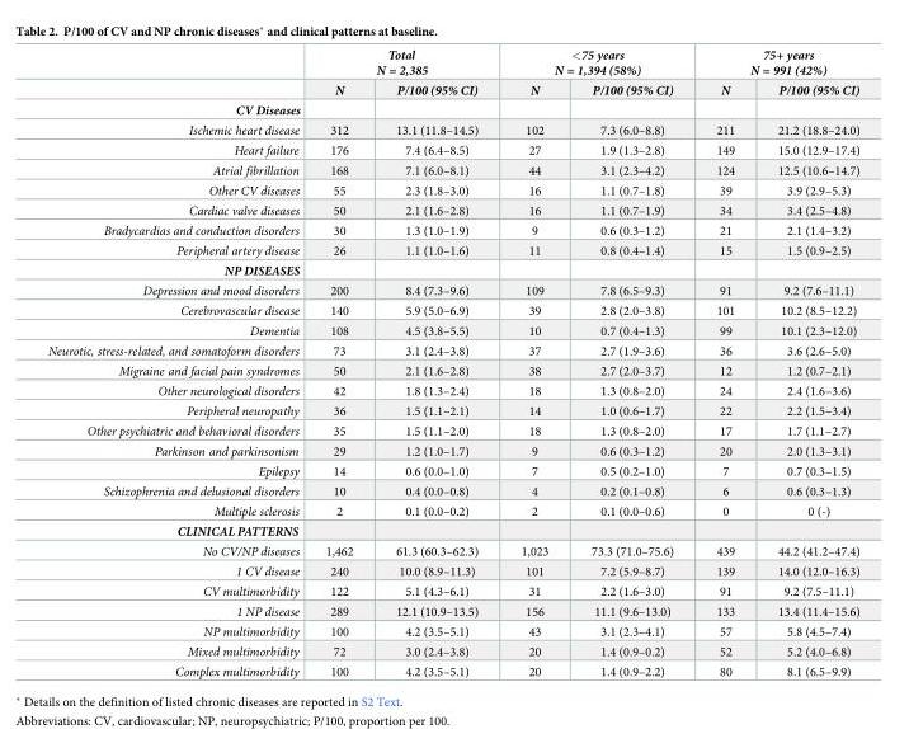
<table><thead><tr><td rowspan="2"></td><td colspan="2">Total N = 2,385</td><td colspan="2">&lt;75 years N = 1,394 (58%)</td><td colspan="2">75+ years N = 991 (42%)</td></tr><tr><td>N</td><td>P/100 (95% CI)</td><td>N</td><td>P/100 (95% CI)</td><td>N</td><td>P/100 (95% CI)</td></tr></thead><tbody><tr><td colspan="7">CV Diseases</td></tr><tr><td>Ischemic heart disease</td><td>312</td><td>13.1 (11.8–14.5)</td><td>102</td><td>7.3 (6.0–8.8)</td><td>211</td><td>21.2 (18.8–24.0)</td></tr><tr><td>Heart failure</td><td>176</td><td>7.4 (6.4–8.5)</td><td>27</td><td>1.9 (1.3–2.8)</td><td>149</td><td>15.0 (12.9–17.4)</td></tr><tr><td>Atrial fibrillation</td><td>168</td><td>7.1 (6.0–8.1)</td><td>44</td><td>3.1 (2.3–4.2)</td><td>124</td><td>12.5 (10.6–14.7)</td></tr><tr><td>Other CV diseases</td><td>55</td><td>2.3 (1.8–3.0)</td><td>16</td><td>1.1 (0.7–1.8)</td><td>39</td><td>3.9 (2.9–5.3)</td></tr><tr><td>Cardiac valve diseases</td><td>50</td><td>2.1 (1.6–2.8)</td><td>16</td><td>1.1 (0.7–1.9)</td><td>34</td><td>3.4 (2.5–4.8)</td></tr><tr><td>Bradycardias and conduction disorders</td><td>30</td><td>1.3 (1.0–1.9)</td><td>9</td><td>0.6 (0.3–1.2)</td><td>21</td><td>2.1 (1.4–3.2)</td></tr><tr><td>Peripheral artery disease</td><td>26</td><td>1.1 (1.0–1.6)</td><td>11</td><td>0.8 (0.4–1.4)</td><td>15</td><td>1.5 (0.9–2.5)</td></tr><tr><td colspan="7">NP DISEASES</td></tr><tr><td>Depression and mood disorders</td><td>200</td><td>8.4 (7.3–9.6)</td><td>109</td><td>7.8 (6.5–9.3)</td><td>91</td><td>9.2 (7.6–11.1)</td></tr><tr><td>Cerebrovascular disease</td><td>140</td><td>5.9 (5.0–6.9)</td><td>39</td><td>2.8 (2.0–3.8)</td><td>101</td><td>10.2 (8.5–12.2)</td></tr><tr><td>Dementia</td><td>108</td><td>4.5 (3.8–5.5)</td><td>10</td><td>0.7 (0.4–1.3)</td><td>99</td><td>10.1 (2.3–12.0)</td></tr><tr><td>Neurotic, stress-related, and somatoform disorders</td><td>73</td><td>3.1 (2.4–3.8)</td><td>37</td><td>2.7 (1.9–3.6)</td><td>36</td><td>3.6 (2.6–5.0)</td></tr><tr><td>Migraine and facial pain syndromes</td><td>50</td><td>2.1 (1.6–2.8)</td><td>38</td><td>2.7 (2.0–3.7)</td><td>12</td><td>1.2 (0.7–2.1)</td></tr><tr><td>Other neurological disorders</td><td>42</td><td>1.8 (1.3–2.4)</td><td>18</td><td>1.3 (0.8–2.0)</td><td>24</td><td>2.4 (1.6–3.6)</td></tr><tr><td>Peripheral neuropathy</td><td>36</td><td>1.5 (1.1–2.1)</td><td>14</td><td>1.0 (0.6–1.7)</td><td>22</td><td>2.2 (1.5–3.4)</td></tr><tr><td>Other psychiatric and behavioral disorders</td><td>35</td><td>1.5 (1.1–2.0)</td><td>18</td><td>1.3 (0.8–2.0)</td><td>17</td><td>1.7 (1.1–2.7)</td></tr><tr><td>Parkinson and parkinsonism</td><td>29</td><td>1.2 (1.0–1.7)</td><td>9</td><td>0.6 (0.3–1.2)</td><td>20</td><td>2.0 (1.3–3.1)</td></tr><tr><td>Epilepsy</td><td>14</td><td>0.6 (0.0–1.0)</td><td>7</td><td>0.5 (0.2–1.0)</td><td>7</td><td>0.7 (0.3–1.5)</td></tr><tr><td>Schizophrenia and delusional disorders</td><td>10</td><td>0.4 (0.0–0.8)</td><td>4</td><td>0.2 (0.1–0.8)</td><td>6</td><td>0.6 (0.3–1.3)</td></tr><tr><td>Multiple sclerosis</td><td>2</td><td>0.1 (0.0–0.2)</td><td>2</td><td>0.1 (0.0–0.6)</td><td>0</td><td>0 (-)</td></tr><tr><td colspan="7">CLINICAL PATTERNS</td></tr><tr><td>No CV/NP diseases</td><td>1,462</td><td>61.3 (60.3–62.3)</td><td>1,023</td><td>73.3 (71.0–75.6)</td><td>439</td><td>44.2 (41.2–47.4)</td></tr><tr><td>1 CV disease</td><td>240</td><td>10.0 (8.9–11.3)</td><td>101</td><td>7.2 (5.9–8.7)</td><td>139</td><td>14.0 (12.0–16.3)</td></tr><tr><td>CV multimorbidity</td><td>122</td><td>5.1 (4.3–6.1)</td><td>31</td><td>2.2 (1.6–3.0)</td><td>91</td><td>9.2 (7.5–11.1)</td></tr><tr><td>1 NP disease</td><td>289</td><td>12.1 (10.9–13.5)</td><td>156</td><td>11.1 (9.6–13.0)</td><td>133</td><td>13.4 (11.4–15.6)</td></tr><tr><td>NP multimorbidity</td><td>100</td><td>4.2 (3.5–5.1)</td><td>43</td><td>3.1 (2.3–4.1)</td><td>57</td><td>5.8 (4.5–7.4)</td></tr><tr><td>Mixed multimorbidity</td><td>72</td><td>3.0 (2.4–3.8)</td><td>20</td><td>1.4 (0.9–0.2)</td><td>52</td><td>5.2 (4.0–6.8)</td></tr><tr><td>Complex multimorbidity</td><td>100</td><td>4.2 (3.5–5.1)</td><td>20</td><td>1.4 (0.9–2.2)</td><td>80</td><td>8.1 (6.5–9.9)</td></tr></tbody></table>